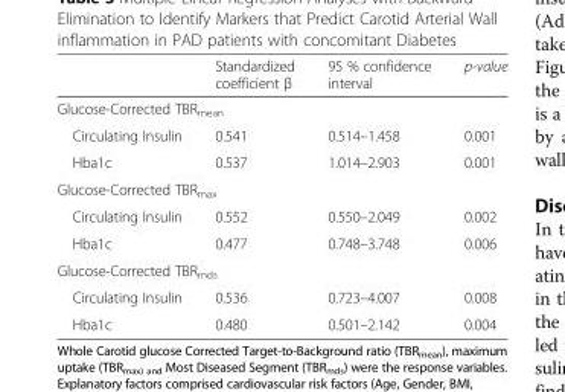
<table><thead><tr><td></td><td>Standardized coefficient β</td><td>95 % confidence interval</td><td>p-value</td></tr></thead><tbody><tr><td colspan="4">Glucose-Corrected TBR<sub>mean</sub></td></tr><tr><td>Circulating Insulin</td><td>0.541</td><td>0.514–1.458</td><td>0.001</td></tr><tr><td>Hba1c</td><td>0.537</td><td>1.014–2.903</td><td>0.001</td></tr><tr><td colspan="4">Glucose-Corrected TBR<sub>max</sub></td></tr><tr><td>Circulating Insulin</td><td>0.552</td><td>0.550–2.049</td><td>0.002</td></tr><tr><td>Hba1c</td><td>0.477</td><td>0.748–3.748</td><td>0.006</td></tr><tr><td colspan="4">Glucose-Corrected TBR<sub>mds</sub></td></tr><tr><td>Circulating Insulin</td><td>0.536</td><td>0.723–4.007</td><td>0.008</td></tr><tr><td>Hba1c</td><td>0.480</td><td>0.501–2.142</td><td>0.004</td></tr></tbody></table>